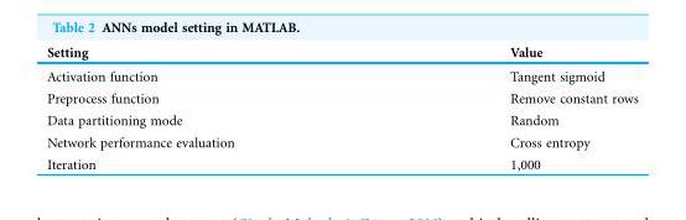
<table><thead><tr><td>Setting</td><td>Value</td></tr></thead><tbody><tr><td>Activation function</td><td>Tangent sigmoid</td></tr><tr><td>Preprocess function</td><td>Remove constant rows</td></tr><tr><td>Data partitioning mode</td><td>Random</td></tr><tr><td>Network performance evaluation</td><td>Cross entropy</td></tr><tr><td>Iteration</td><td>1,000</td></tr></tbody></table>